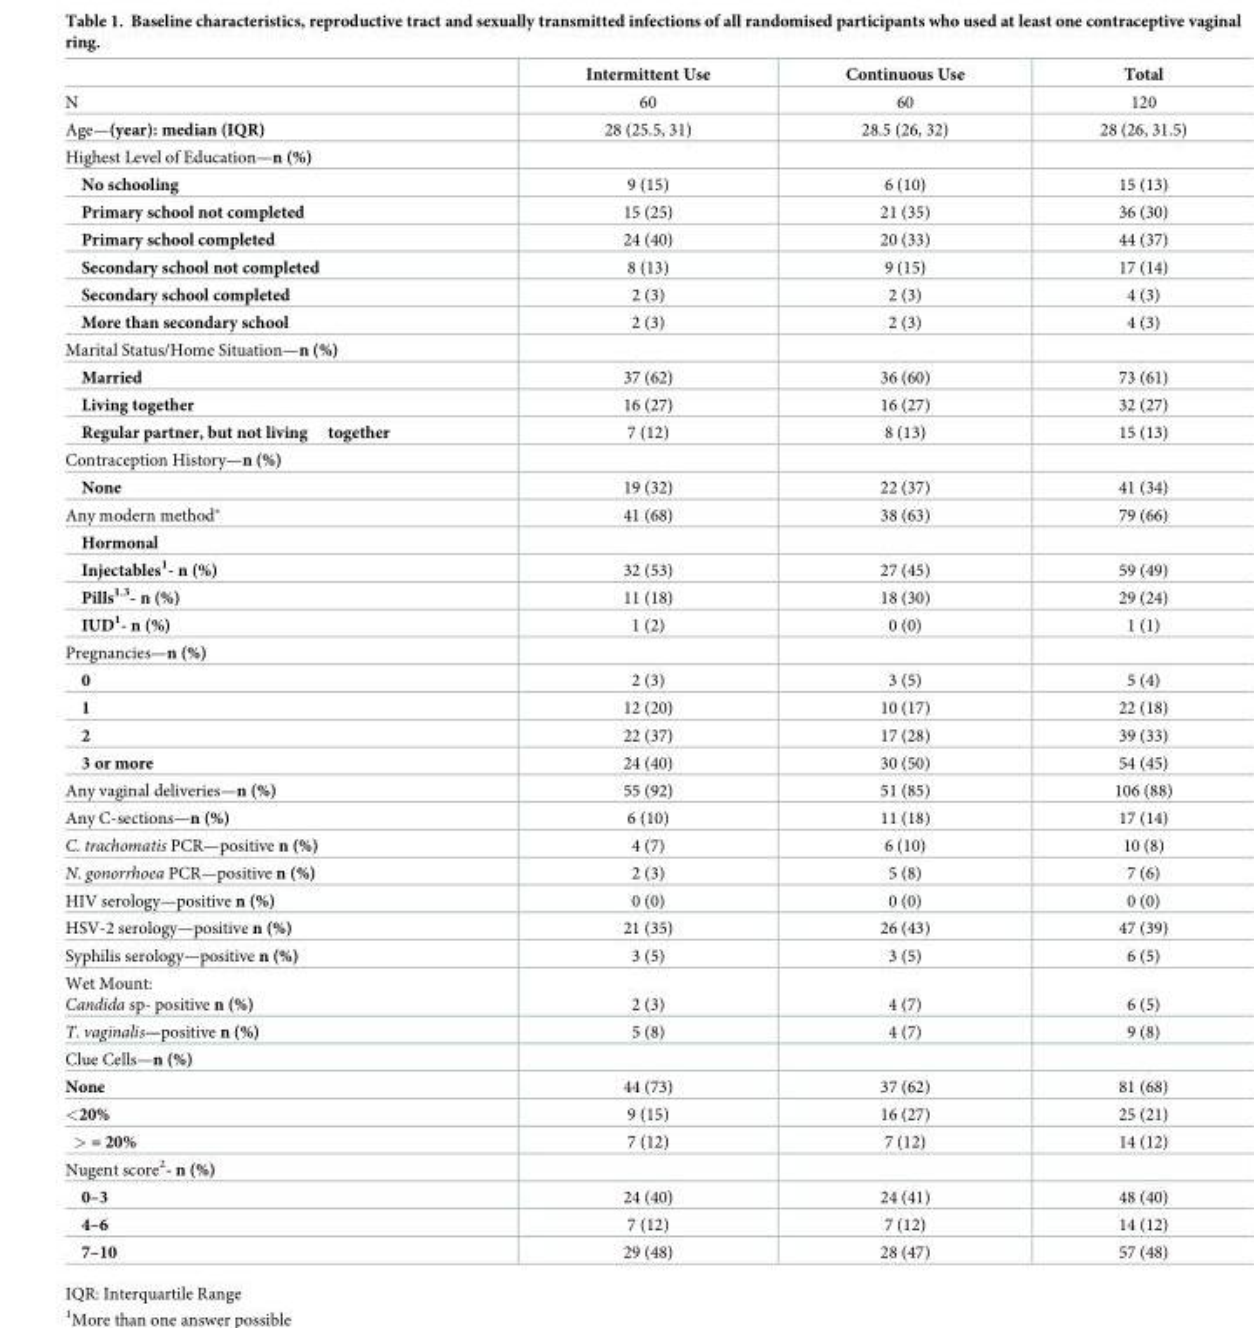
<table><thead><tr><td></td><td>Intermittent Use</td><td>Continuous Use</td><td>Total</td></tr></thead><tbody><tr><td>N</td><td>60</td><td>60</td><td>120</td></tr><tr><td>Age—(year): median (IQR)</td><td>28 (25.5, 31)</td><td>28.5 (26, 32)</td><td>28 (26, 31.5)</td></tr><tr><td colspan="4">Highest Level of Education—n (%)</td></tr><tr><td>No schooling</td><td>9 (15)</td><td>6 (10)</td><td>15 (13)</td></tr><tr><td>Primary school not completed</td><td>15 (25)</td><td>21 (35)</td><td>36 (30)</td></tr><tr><td>Primary school completed</td><td>24 (40)</td><td>20 (33)</td><td>44 (37)</td></tr><tr><td>Secondary school not completed</td><td>8 (13)</td><td>9 (15)</td><td>17 (14)</td></tr><tr><td>Secondary school completed</td><td>2 (3)</td><td>2 (3)</td><td>4 (3)</td></tr><tr><td>More than secondary school</td><td>2 (3)</td><td>2 (3)</td><td>4 (3)</td></tr><tr><td colspan="4">Marital Status/Home Situation—n (%)</td></tr><tr><td>Married</td><td>37 (62)</td><td>36 (60)</td><td>73 (61)</td></tr><tr><td>Living together</td><td>16 (27)</td><td>16 (27)</td><td>32 (27)</td></tr><tr><td>Regular partner, but not living together</td><td>7 (12)</td><td>8 (13)</td><td>15 (13)</td></tr><tr><td colspan="4">Contraception History—n (%)</td></tr><tr><td>None</td><td>19 (32)</td><td>22 (37)</td><td>41 (34)</td></tr><tr><td>Any modern method*</td><td>41 (68)</td><td>38 (63)</td><td>79 (66)</td></tr><tr><td colspan="4">Hormonal</td></tr><tr><td>Injectables<sup>1</sup>- n (%)</td><td>32 (53)</td><td>27 (45)</td><td>59 (49)</td></tr><tr><td>Pills<sup>1,3</sup>- n (%)</td><td>11 (18)</td><td>18 (30)</td><td>29 (24)</td></tr><tr><td>IUD<sup>1</sup>- n (%)</td><td>1 (2)</td><td>0 (0)</td><td>1 (1)</td></tr><tr><td colspan="4">Pregnancies—n (%)</td></tr><tr><td>0</td><td>2 (3)</td><td>3 (5)</td><td>5 (4)</td></tr><tr><td>1</td><td>12 (20)</td><td>10 (17)</td><td>22 (18)</td></tr><tr><td>2</td><td>22 (37)</td><td>17 (28)</td><td>39 (33)</td></tr><tr><td>3 or more</td><td>24 (40)</td><td>30 (50)</td><td>54 (45)</td></tr><tr><td>Any vaginal deliveries—n (%)</td><td>55 (92)</td><td>51 (85)</td><td>106 (88)</td></tr><tr><td>Any C-sections—n (%)</td><td>6 (10)</td><td>11 (18)</td><td>17 (14)</td></tr><tr><td>C. trachomatis PCR—positive n (%)</td><td>4 (7)</td><td>6 (10)</td><td>10 (8)</td></tr><tr><td>N. gonorrhoea PCR—positive n (%)</td><td>2 (3)</td><td>5 (8)</td><td>7 (6)</td></tr><tr><td>HIV serology—positive n (%)</td><td>0 (0)</td><td>0 (0)</td><td>0 (0)</td></tr><tr><td>HSV-2 serology—positive n (%)</td><td>21 (35)</td><td>26 (43)</td><td>47 (39)</td></tr><tr><td>Syphilis serology—positive n (%)</td><td>3 (5)</td><td>3 (5)</td><td>6 (5)</td></tr><tr><td>Wet Mount: Candida sp- positive n (%)</td><td>2 (3)</td><td>4 (7)</td><td>6 (5)</td></tr><tr><td>T. vaginalis—positive n (%)</td><td>5 (8)</td><td>4 (7)</td><td>9 (8)</td></tr><tr><td colspan="4">Clue Cells—n (%)</td></tr><tr><td>None</td><td>44 (73)</td><td>37 (62)</td><td>81 (68)</td></tr><tr><td>&lt;20%</td><td>9 (15)</td><td>16 (27)</td><td>25 (21)</td></tr><tr><td>&gt; = 20%</td><td>7 (12)</td><td>7 (12)</td><td>14 (12)</td></tr><tr><td colspan="4">Nugent score<sup>2</sup>- n (%)</td></tr><tr><td>0–3</td><td>24 (40)</td><td>24 (41)</td><td>48 (40)</td></tr><tr><td>4–6</td><td>7 (12)</td><td>7 (12)</td><td>14 (12)</td></tr><tr><td>7–10</td><td>29 (48)</td><td>28 (47)</td><td>57 (48)</td></tr></tbody></table>